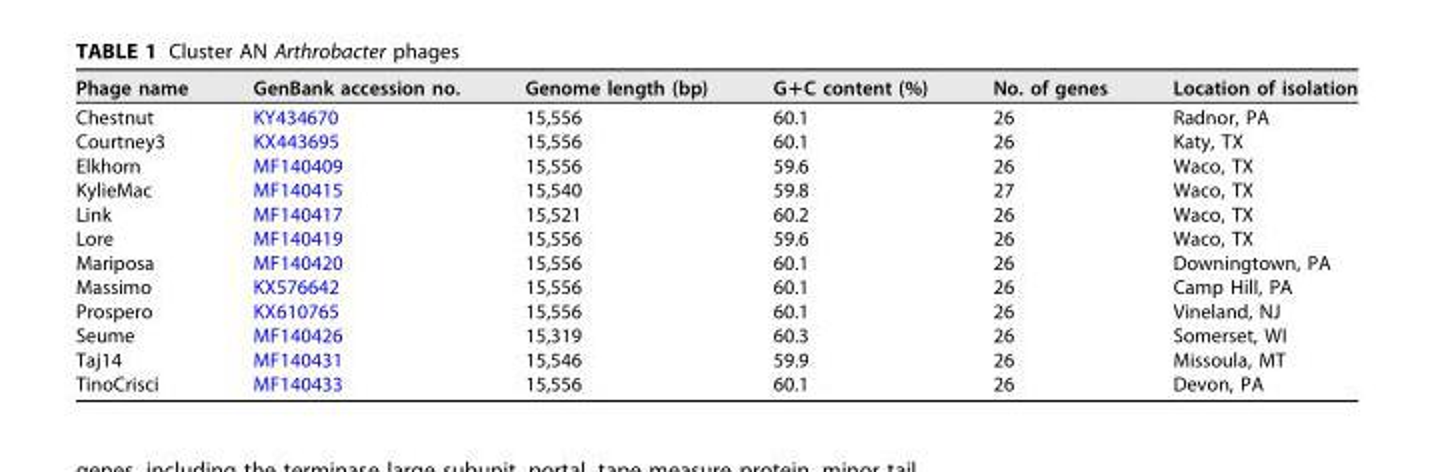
<table><thead><tr><td>Phage name</td><td>GenBank accession no.</td><td>Genome length (bp)</td><td>G+C content (%)</td><td>No. of genes</td><td>Location of isolation</td></tr></thead><tbody><tr><td>Chestnut</td><td>KY434670</td><td>15,556</td><td>60.1</td><td>26</td><td>Radnor, PA</td></tr><tr><td>Courtney3</td><td>KX443695</td><td>15,556</td><td>60.1</td><td>26</td><td>Katy, TX</td></tr><tr><td>Elkhorn</td><td>MF140409</td><td>15,556</td><td>59.6</td><td>26</td><td>Waco, TX</td></tr><tr><td>KylieMac</td><td>MF140415</td><td>15,540</td><td>59.8</td><td>27</td><td>Waco, TX</td></tr><tr><td>Link</td><td>MF140417</td><td>15,521</td><td>60.2</td><td>26</td><td>Waco, TX</td></tr><tr><td>Lore</td><td>MF140419</td><td>15,556</td><td>59.6</td><td>26</td><td>Waco, TX</td></tr><tr><td>Mariposa</td><td>MF140420</td><td>15,556</td><td>60.1</td><td>26</td><td>Downingtown, PA</td></tr><tr><td>Massimo</td><td>KX576642</td><td>15,556</td><td>60.1</td><td>26</td><td>Camp Hill, PA</td></tr><tr><td>Prospero</td><td>KX610765</td><td>15,556</td><td>60.1</td><td>26</td><td>Vineland, NJ</td></tr><tr><td>Seume</td><td>MF140426</td><td>15,319</td><td>60.3</td><td>26</td><td>Somerset, WI</td></tr><tr><td>Taj14</td><td>MF140431</td><td>15,546</td><td>59.9</td><td>26</td><td>Missoula, MT</td></tr><tr><td>TinoCrisci</td><td>MF140433</td><td>15,556</td><td>60.1</td><td>26</td><td>Devon, PA</td></tr></tbody></table>